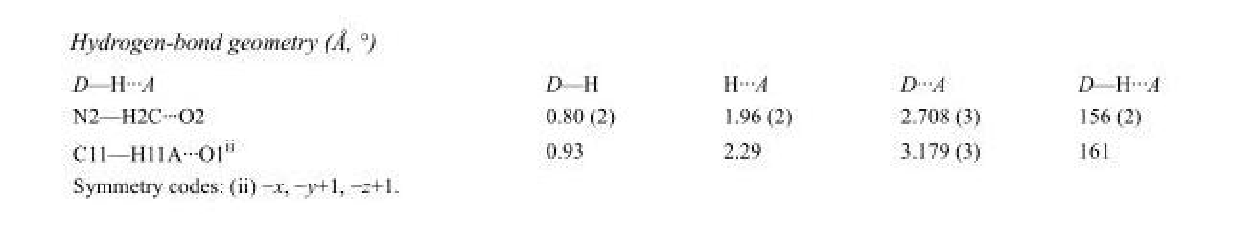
<table><tbody><tr><td>D—H···A</td><td>D—H</td><td>H···A</td><td>D···A</td><td>D—H···A</td></tr><tr><td>N2—H2C···O2</td><td>0.80 (2)</td><td>1.96 (2)</td><td>2.708 (3)</td><td>156 (2)</td></tr><tr><td>C11—H11A···O1<sup>ii</sup></td><td>0.93</td><td>2.29</td><td>3.179 (3)</td><td>161</td></tr></tbody></table>